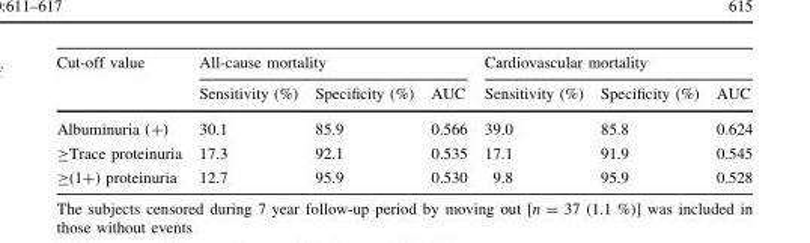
<table><thead><tr><td rowspan="2">Cut-off value</td><td colspan="3">All-cause mortality</td><td colspan="3">Cardiovascular mortality</td></tr><tr><td>Sensitivity (%)</td><td>Specificity (%)</td><td>AUC</td><td>Sensitivity (%)</td><td>Specificity (%)</td><td>AUC</td></tr></thead><tbody><tr><td>Albuminuria (+)</td><td>30.1</td><td>85.9</td><td>0.566</td><td>39.0</td><td>85.8</td><td>0.624</td></tr><tr><td>≥Trace proteinuria</td><td>17.3</td><td>92.1</td><td>0.535</td><td>17.1</td><td>91.9</td><td>0.545</td></tr><tr><td>≥(1+) proteinuria</td><td>12.7</td><td>95.9</td><td>0.530</td><td>9.8</td><td>95.9</td><td>0.528</td></tr></tbody></table>